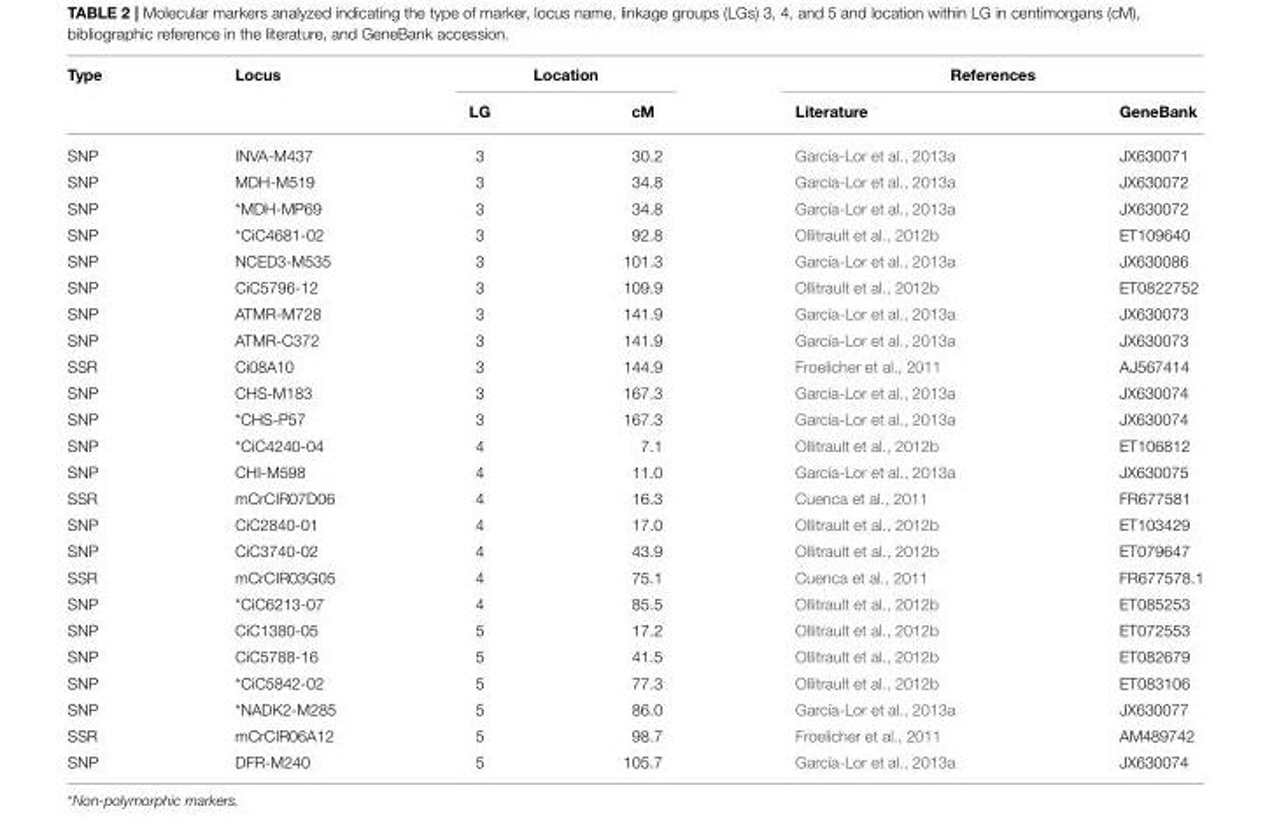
<table><thead><tr><td rowspan="2">Type</td><td rowspan="2">Locus</td><td colspan="2">Location</td><td colspan="2">References</td></tr><tr><td>LG</td><td>cM</td><td>Literature</td><td>GeneBank</td></tr></thead><tbody><tr><td>SNP</td><td>INVA-M437</td><td>3</td><td>30.2</td><td>García-Lor et al., 2013a</td><td>JX630071</td></tr><tr><td>SNP</td><td>MDH-M519</td><td>3</td><td>34.8</td><td>García-Lor et al., 2013a</td><td>JX630072</td></tr><tr><td>SNP</td><td>*MDH-MP69</td><td>3</td><td>34.8</td><td>García-Lor et al., 2013a</td><td>JX630072</td></tr><tr><td>SNP</td><td>*CiC4681-02</td><td>3</td><td>92.8</td><td>Ollitrault et al., 2012b</td><td>ET109640</td></tr><tr><td>SNP</td><td>NCED3-M535</td><td>3</td><td>101.3</td><td>García-Lor et al., 2013a</td><td>JX630086</td></tr><tr><td>SNP</td><td>CiC5796-12</td><td>3</td><td>109.9</td><td>Ollitrault et al., 2012b</td><td>ET0822752</td></tr><tr><td>SNP</td><td>ATMR-M728</td><td>3</td><td>141.9</td><td>García-Lor et al., 2013a</td><td>JX630073</td></tr><tr><td>SNP</td><td>ATMR-C372</td><td>3</td><td>141.9</td><td>García-Lor et al., 2013a</td><td>JX630073</td></tr><tr><td>SSR</td><td>Ci08A10</td><td>3</td><td>144.9</td><td>Froelicher et al., 2011</td><td>AJ567414</td></tr><tr><td>SNP</td><td>CHS-M183</td><td>3</td><td>167.3</td><td>García-Lor et al., 2013a</td><td>JX630074</td></tr><tr><td>SNP</td><td>*CHS-P57</td><td>3</td><td>167.3</td><td>García-Lor et al., 2013a</td><td>JX630074</td></tr><tr><td>SNP</td><td>*CiC4240-04</td><td>4</td><td>7.1</td><td>Ollitrault et al., 2012b</td><td>ET106812</td></tr><tr><td>SNP</td><td>CHI-M598</td><td>4</td><td>11.0</td><td>García-Lor et al., 2013a</td><td>JX630075</td></tr><tr><td>SSR</td><td>mCrCIR07D06</td><td>4</td><td>16.3</td><td>Cuenca et al., 2011</td><td>FR677581</td></tr><tr><td>SNP</td><td>CiC2840-01</td><td>4</td><td>17.0</td><td>Ollitrault et al., 2012b</td><td>ET103429</td></tr><tr><td>SNP</td><td>CiC3740-02</td><td>4</td><td>43.9</td><td>Ollitrault et al., 2012b</td><td>ET079647</td></tr><tr><td>SSR</td><td>mCrCIR03G05</td><td>4</td><td>75.1</td><td>Cuenca et al., 2011</td><td>FR677578.1</td></tr><tr><td>SNP</td><td>*CiC6213-07</td><td>4</td><td>85.5</td><td>Ollitrault et al., 2012b</td><td>ET085253</td></tr><tr><td>SNP</td><td>CiC1380-05</td><td>5</td><td>17.2</td><td>Ollitrault et al., 2012b</td><td>ET072553</td></tr><tr><td>SNP</td><td>CiC5788-16</td><td>5</td><td>41.5</td><td>Ollitrault et al., 2012b</td><td>ET082679</td></tr><tr><td>SNP</td><td>*CiC5842-02</td><td>5</td><td>77.3</td><td>Ollitrault et al., 2012b</td><td>ET083106</td></tr><tr><td>SNP</td><td>*NADK2-M285</td><td>5</td><td>86.0</td><td>García-Lor et al., 2013a</td><td>JX630077</td></tr><tr><td>SSR</td><td>mCrCIR06A12</td><td>5</td><td>98.7</td><td>Froelicher et al., 2011</td><td>AM489742</td></tr><tr><td>SNP</td><td>DFR-M240</td><td>5</td><td>105.7</td><td>García-Lor et al., 2013a</td><td>JX630074</td></tr></tbody></table>